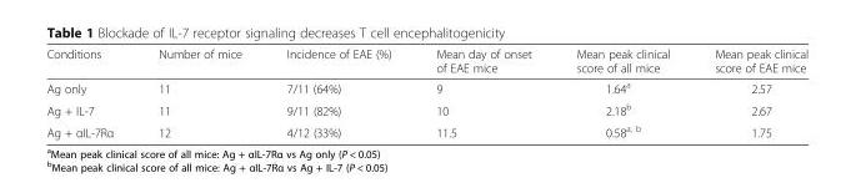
<table><thead><tr><td>Conditions</td><td>Number of mice</td><td>Incidence of EAE (%)</td><td>Mean day of onset of EAE mice</td><td>Mean peak clinical score of all mice</td><td>Mean peak clinical score of EAE mice</td></tr></thead><tbody><tr><td>Ag only</td><td>11</td><td>7/11 (64%)</td><td>9</td><td>1.64<sup>a</sup></td><td>2.57</td></tr><tr><td>Ag + IL-7</td><td>11</td><td>9/11 (82%)</td><td>10</td><td>2.18<sup>b</sup></td><td>2.67</td></tr><tr><td>Ag + αIL-7Rα</td><td>12</td><td>4/12 (33%)</td><td>11.5</td><td>0.58<sup>a, b</sup></td><td>1.75</td></tr></tbody></table>